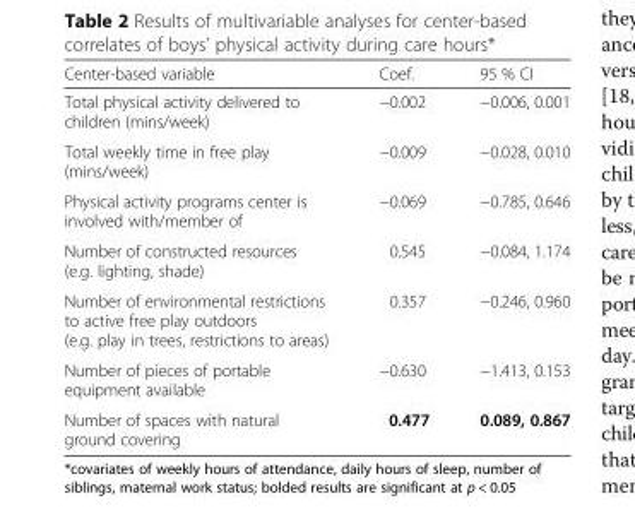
<table><thead><tr><td>Center-based variable</td><td>Coef.</td><td>95 % CI</td></tr></thead><tbody><tr><td>Total physical activity delivered to children (mins/week)</td><td>−0.002</td><td>−0.006, 0.001</td></tr><tr><td>Total weekly time in free play (mins/week)</td><td>−0.009</td><td>−0.028, 0.010</td></tr><tr><td>Physical activity programs center is involved with/member of</td><td>−0.069</td><td>−0.785, 0.646</td></tr><tr><td>Number of constructed resources (e.g. lighting, shade)</td><td>0.545</td><td>−0.084, 1.174</td></tr><tr><td>Number of environmental restrictions to active free play outdoors (e.g. play in trees, restrictions to areas)</td><td>0.357</td><td>−0.246, 0.960</td></tr><tr><td>Number of pieces of portable equipment available</td><td>−0.630</td><td>−1.413, 0.153</td></tr><tr><td>Number of spaces with natural ground covering</td><td>0.477</td><td>0.089, 0.867</td></tr></tbody></table>